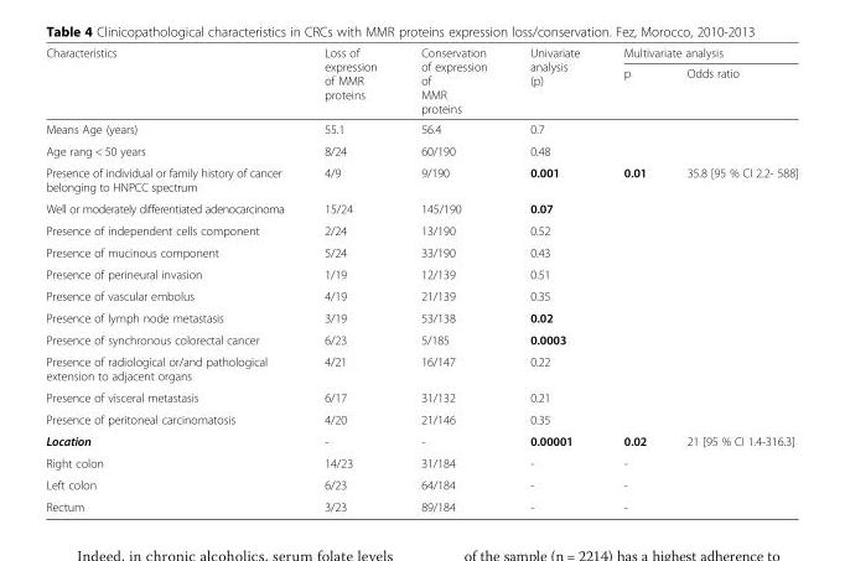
<table><thead><tr><td rowspan="2">Characteristics</td><td rowspan="2">Loss of expression of MMR proteins</td><td rowspan="2">Conservation of expression of MMR proteins</td><td rowspan="2">Univariate analysis (p)</td><td colspan="2">Multivariate analysis</td></tr><tr><td>p</td><td>Odds ratio</td></tr></thead><tbody><tr><td>Means Age (years)</td><td>55.1</td><td>56.4</td><td>0.7</td><td></td><td></td></tr><tr><td>Age rang &lt; 50 years</td><td>8/24</td><td>60/190</td><td>0.48</td><td></td><td></td></tr><tr><td>Presence of individual or family history of cancer belonging to HNPCC spectrum</td><td>4/9</td><td>9/190</td><td>0.001</td><td>0.01</td><td>35.8 [95 % CI 2.2- 588]</td></tr><tr><td>Well or moderately differentiated adenocarcinoma</td><td>15/24</td><td>145/190</td><td>0.07</td><td></td><td></td></tr><tr><td>Presence of independent cells component</td><td>2/24</td><td>13/190</td><td>0.52</td><td></td><td></td></tr><tr><td>Presence of mucinous component</td><td>5/24</td><td>33/190</td><td>0.43</td><td></td><td></td></tr><tr><td>Presence of perineural invasion</td><td>1/19</td><td>12/139</td><td>0.51</td><td></td><td></td></tr><tr><td>Presence of vascular embolus</td><td>4/19</td><td>21/139</td><td>0.35</td><td></td><td></td></tr><tr><td>Presence of lymph node metastasis</td><td>3/19</td><td>53/138</td><td>0.02</td><td></td><td></td></tr><tr><td>Presence of synchronous colorectal cancer</td><td>6/23</td><td>5/185</td><td>0.0003</td><td></td><td></td></tr><tr><td>Presence of radiological or/and pathological extension to adjacent organs</td><td>4/21</td><td>16/147</td><td>0.22</td><td></td><td></td></tr><tr><td>Presence of visceral metastasis</td><td>6/17</td><td>31/132</td><td>0.21</td><td></td><td></td></tr><tr><td>Presence of peritoneal carcinomatosis</td><td>4/20</td><td>21/146</td><td>0.35</td><td></td><td></td></tr><tr><td>Location</td><td>-</td><td>-</td><td>0.00001</td><td>0.02</td><td>21 [95 % CI 1.4-316.3]</td></tr><tr><td>Right colon</td><td>14/23</td><td>31/184</td><td>-</td><td>-</td><td></td></tr><tr><td>Left colon</td><td>6/23</td><td>64/184</td><td>-</td><td>-</td><td></td></tr><tr><td>Rectum</td><td>3/23</td><td>89/184</td><td>-</td><td>-</td><td></td></tr></tbody></table>